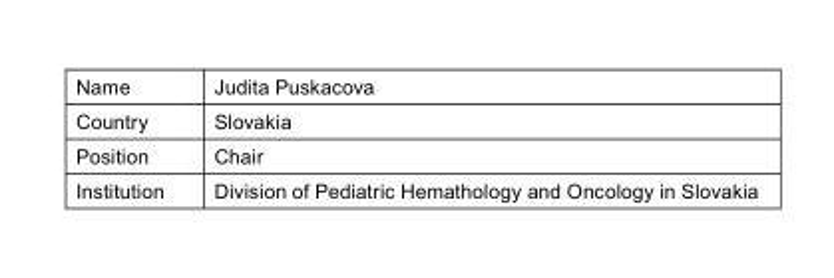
<table><tbody><tr><td>Name</td><td>Judita Puskacova</td></tr><tr><td>Country</td><td>Slovakia</td></tr><tr><td>Position</td><td>Chair</td></tr><tr><td>Institution</td><td>Division of Pediatric Hemathology and Oncology in Slovakia</td></tr></tbody></table>